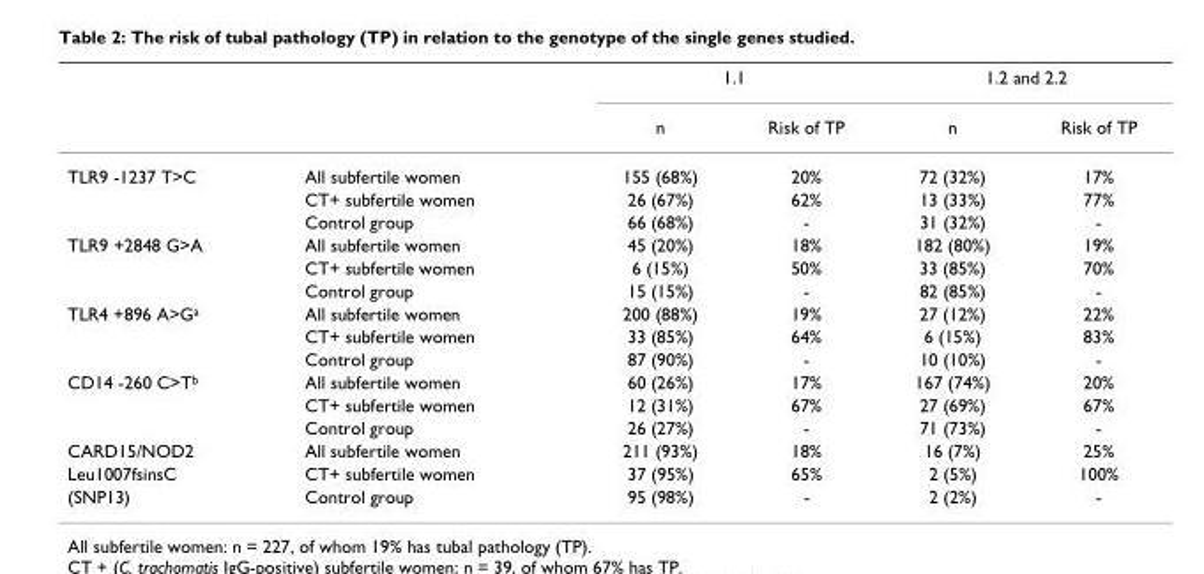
<table><thead><tr><td rowspan="2"></td><td rowspan="2"></td><td colspan="2">1.1</td><td colspan="2">1.2 and 2.2</td></tr><tr><td>n</td><td>Risk of TP</td><td>n</td><td>Risk of TP</td></tr></thead><tbody><tr><td rowspan="3">TLR9 -1237 T&gt;C</td><td>All subfertile women</td><td>155 (68%)</td><td>20%</td><td>72 (32%)</td><td>17%</td></tr><tr><td>CT+ subfertile women</td><td>26 (67%)</td><td>62%</td><td>13 (33%)</td><td>77%</td></tr><tr><td>Control group</td><td>66 (68%)</td><td>-</td><td>31 (32%)</td><td>-</td></tr><tr><td rowspan="3">TLR9 +2848 G&gt;A</td><td>All subfertile women</td><td>45 (20%)</td><td>18%</td><td>182 (80%)</td><td>19%</td></tr><tr><td>CT+ subfertile women</td><td>6 (15%)</td><td>50%</td><td>33 (85%)</td><td>70%</td></tr><tr><td>Control group</td><td>15 (15%)</td><td>-</td><td>82 (85%)</td><td>-</td></tr><tr><td rowspan="3">TLR4 +896 A&gt;G<sup>a</sup></td><td>All subfertile women</td><td>200 (88%)</td><td>19%</td><td>27 (12%)</td><td>22%</td></tr><tr><td>CT+ subfertile women</td><td>33 (85%)</td><td>64%</td><td>6 (15%)</td><td>83%</td></tr><tr><td>Control group</td><td>87 (90%)</td><td>-</td><td>10 (10%)</td><td>-</td></tr><tr><td rowspan="3">CD14 -260 C&gt;T<sup>b</sup></td><td>All subfertile women</td><td>60 (26%)</td><td>17%</td><td>167 (74%)</td><td>20%</td></tr><tr><td>CT+ subfertile women</td><td>12 (31%)</td><td>67%</td><td>27 (69%)</td><td>67%</td></tr><tr><td>Control group</td><td>26 (27%)</td><td>-</td><td>71 (73%)</td><td>-</td></tr><tr><td>CARD15/NOD2</td><td>All subfertile women</td><td>211 (93%)</td><td>18%</td><td>16 (7%)</td><td>25%</td></tr><tr><td>Leu1007fsinsC</td><td>CT+ subfertile women</td><td>37 (95%)</td><td>65%</td><td>2 (5%)</td><td>100%</td></tr><tr><td>(SNP13)</td><td>Control group</td><td>95 (98%)</td><td>-</td><td>2 (2%)</td><td>-</td></tr></tbody></table>